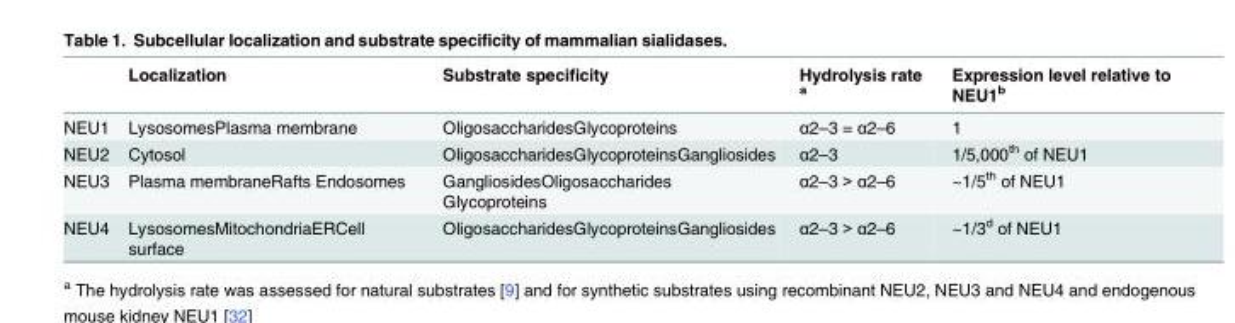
<table><thead><tr><td></td><td>Localization</td><td>Substrate specificity</td><td>Hydrolysis rate <sup>a</sup></td><td>Expression level relative to NEU1<sup>b</sup></td></tr></thead><tbody><tr><td>NEU1</td><td>LysosomesPlasma membrane</td><td>OligosaccharidesGlycoproteins</td><td>α2–3 = α2–6</td><td>1</td></tr><tr><td>NEU2</td><td>Cytosol</td><td>OligosaccharidesGlycoproteinsGangliosides</td><td>α2–3</td><td>1/5,000<sup>th</sup> of NEU1</td></tr><tr><td>NEU3</td><td>Plasma membraneRafts Endosomes</td><td>GangliosidesOligosaccharides Glycoproteins</td><td>α2–3 &gt; α2–6</td><td>~1/5<sup>th</sup> of NEU1</td></tr><tr><td>NEU4</td><td>LysosomesMitochondriaERCell surface</td><td>OligosaccharidesGlycoproteinsGangliosides</td><td>α2–3 &gt; α2–6</td><td>~1/3<sup>d</sup> of NEU1</td></tr></tbody></table>